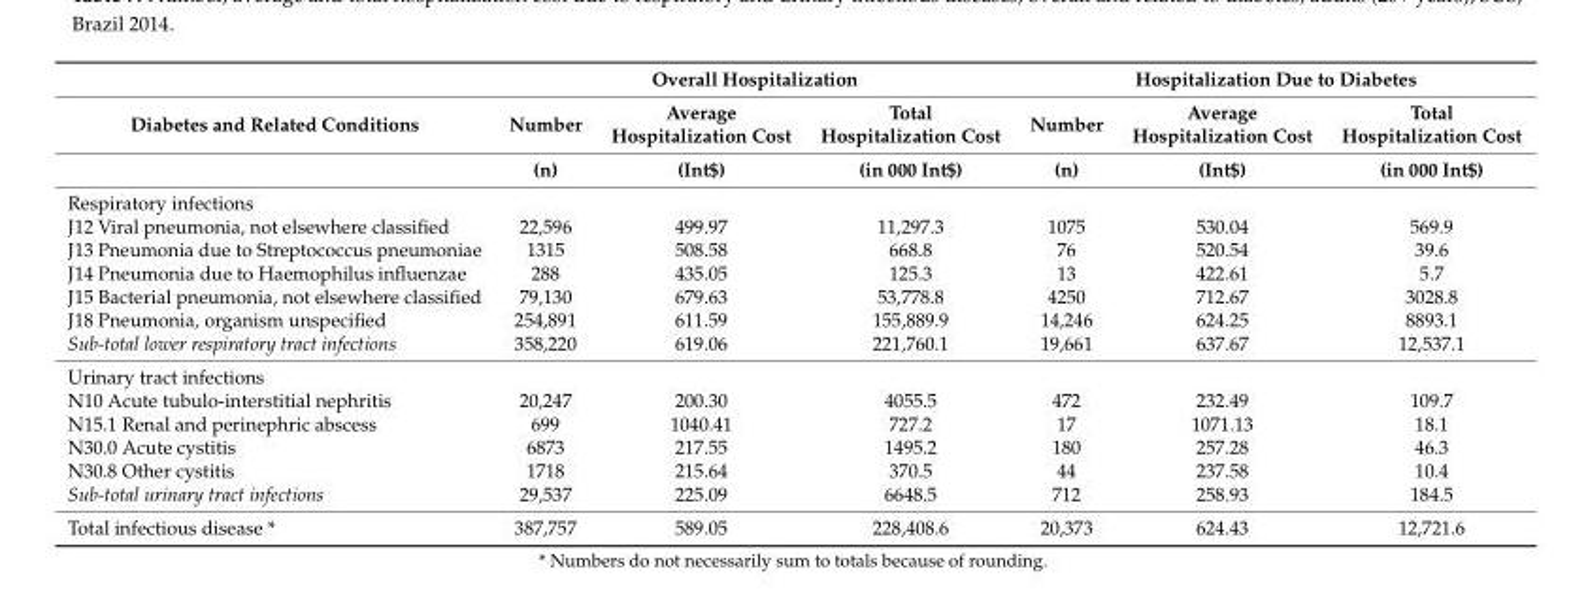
<table><thead><tr><td rowspan="3">Diabetes and Related Conditions</td><td colspan="3">Overall Hospitalization</td><td colspan="3">Hospitalization Due to Diabetes</td></tr><tr><td rowspan="2">Number (n)</td><td rowspan="2">Average Hospitalization Cost (Int$)</td><td rowspan="2">Total Hospitalization Cost (in 000 Int$)</td><td rowspan="2">Number (n)</td><td rowspan="2">Average Hospitalization Cost (Int$)</td><td rowspan="2">Total Hospitalization Cost (in 000 Int$)</td></tr><tr></tr></thead><tbody><tr><td colspan="7">Respiratory infections</td></tr><tr><td>J12 Viral pneumonia, not elsewhere classified</td><td>22,596</td><td>499.97</td><td>11,297.3</td><td>1075</td><td>530.04</td><td>569.9</td></tr><tr><td>J13 Pneumonia due to Streptococcus pneumoniae</td><td>1315</td><td>508.58</td><td>668.8</td><td>76</td><td>520.54</td><td>39.6</td></tr><tr><td>J14 Pneumonia due to Haemophilus influenzae</td><td>288</td><td>435.05</td><td>125.3</td><td>13</td><td>422.61</td><td>5.7</td></tr><tr><td>J15 Bacterial pneumonia, not elsewhere classified</td><td>79,130</td><td>679.63</td><td>53,778.8</td><td>4250</td><td>712.67</td><td>3028.8</td></tr><tr><td>J18 Pneumonia, organism unspecified</td><td>254,891</td><td>611.59</td><td>155,889.9</td><td>14,246</td><td>624.25</td><td>8893.1</td></tr><tr><td>Sub-total lower respiratory tract infections</td><td>358,220</td><td>619.06</td><td>221,760.1</td><td>19,661</td><td>637.67</td><td>12,537.1</td></tr><tr><td colspan="7">Urinary tract infections</td></tr><tr><td>N10 Acute tubulo-interstitial nephritis</td><td>20,247</td><td>200.30</td><td>4055.5</td><td>472</td><td>232.49</td><td>109.7</td></tr><tr><td>N15.1 Renal and perinephric abscess</td><td>699</td><td>1040.41</td><td>727.2</td><td>17</td><td>1071.13</td><td>18.1</td></tr><tr><td>N30.0 Acute cystitis</td><td>6873</td><td>217.55</td><td>1495.2</td><td>180</td><td>257.28</td><td>46.3</td></tr><tr><td>N30.8 Other cystitis</td><td>1718</td><td>215.64</td><td>370.5</td><td>44</td><td>237.58</td><td>10.4</td></tr><tr><td>Sub-total urinary tract infections</td><td>29,537</td><td>225.09</td><td>6648.5</td><td>712</td><td>258.93</td><td>184.5</td></tr><tr><td>Total infectious disease *</td><td>387,757</td><td>589.05</td><td>228,408.6</td><td>20,373</td><td>624.43</td><td>12,721.6</td></tr></tbody></table>